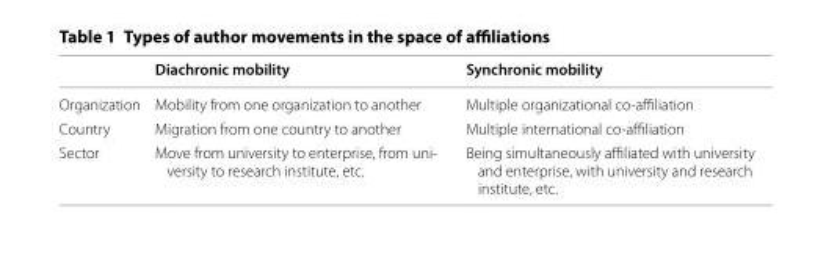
<table><thead><tr><td></td><td>Diachronic mobility</td><td>Synchronic mobility</td></tr></thead><tbody><tr><td>Organization</td><td>Mobility from one organization to another</td><td>Multiple organizational co-affiliation</td></tr><tr><td>Country</td><td>Migration from one country to another</td><td>Multiple international co-affiliation</td></tr><tr><td>Sector</td><td>Move from university to enterprise, from uni- versity to research institute, etc.</td><td>Being simultaneously affiliated with university and enterprise, with university and research institute, etc.</td></tr></tbody></table>